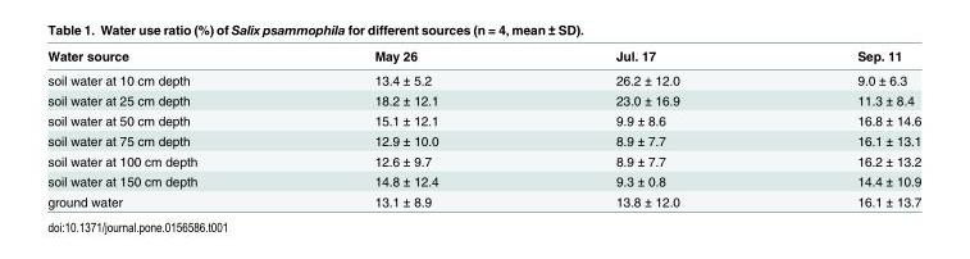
<table><thead><tr><td>Water source</td><td>May 26</td><td>Jul. 17</td><td>Sep. 11</td></tr></thead><tbody><tr><td>soil water at 10 cm depth</td><td>13.4 ± 5.2</td><td>26.2 ± 12.0</td><td>9.0 ± 6.3</td></tr><tr><td>soil water at 25 cm depth</td><td>18.2 ± 12.1</td><td>23.0 ± 16.9</td><td>11.3 ± 8.4</td></tr><tr><td>soil water at 50 cm depth</td><td>15.1 ± 12.1</td><td>9.9 ± 8.6</td><td>16.8 ± 14.6</td></tr><tr><td>soil water at 75 cm depth</td><td>12.9 ± 10.0</td><td>8.9 ± 7.7</td><td>16.1 ± 13.1</td></tr><tr><td>soil water at 100 cm depth</td><td>12.6 ± 9.7</td><td>8.9 ± 7.7</td><td>16.2 ± 13.2</td></tr><tr><td>soil water at 150 cm depth</td><td>14.8 ± 12.4</td><td>9.3 ± 0.8</td><td>14.4 ± 10.9</td></tr><tr><td>ground water</td><td>13.1 ± 8.9</td><td>13.8 ± 12.0</td><td>16.1 ± 13.7</td></tr></tbody></table>